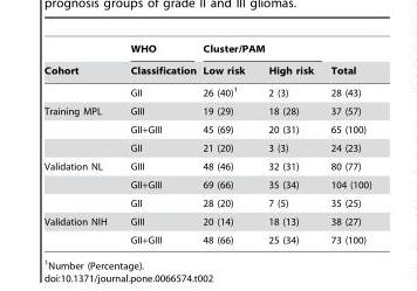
<table><thead><tr><td rowspan="2">Cohort</td><td rowspan="2">WHO Classification</td><td colspan="2">Cluster/PAM</td><td rowspan="2">Total</td></tr><tr><td>Low risk</td><td>High risk</td></tr></thead><tbody><tr><td></td><td>GII</td><td>26 (40)<sup>1</sup></td><td>2 (3)</td><td>28 (43)</td></tr><tr><td rowspan="3">Training MPL</td><td>GIII</td><td>19 (29)</td><td>18 (28)</td><td>37 (57)</td></tr><tr><td>GII+GIII</td><td>45 (69)</td><td>20 (31)</td><td>65 (100)</td></tr><tr><td>GII</td><td>21 (20)</td><td>3 (3)</td><td>24 (23)</td></tr><tr><td rowspan="3">Validation NL</td><td>GIII</td><td>48 (46)</td><td>32 (31)</td><td>80 (77)</td></tr><tr><td>GII+GIII</td><td>69 (66)</td><td>35 (34)</td><td>104 (100)</td></tr><tr><td>GII</td><td>28 (20)</td><td>7 (5)</td><td>35 (25)</td></tr><tr><td rowspan="2">Validation NIH</td><td>GIII</td><td>20 (14)</td><td>18 (13)</td><td>38 (27)</td></tr><tr><td>GII+GIII</td><td>48 (66)</td><td>25 (34)</td><td>73 (100)</td></tr></tbody></table>